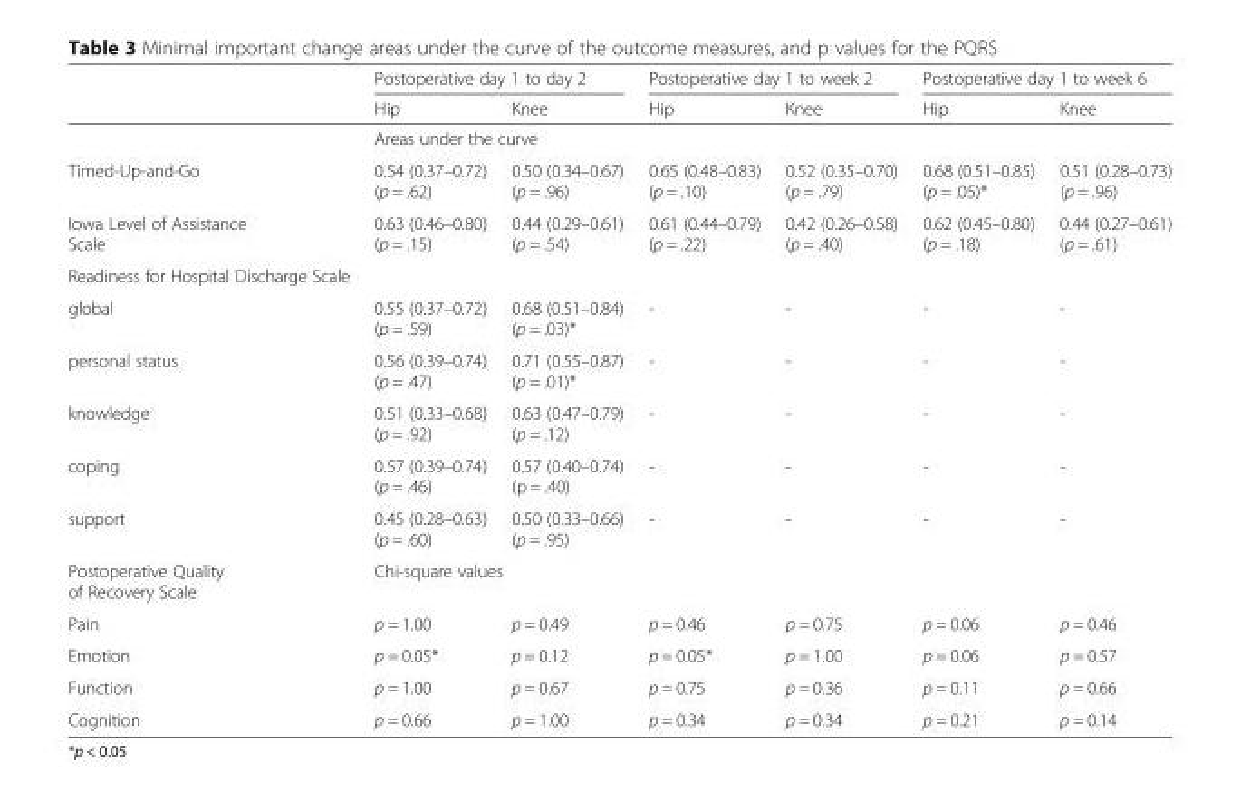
<table><thead><tr><td rowspan="2"></td><td colspan="2">Postoperative day 1 to day 2</td><td colspan="2">Postoperative day 1 to week 2</td><td colspan="2">Postoperative day 1 to week 6</td></tr><tr><td>Hip</td><td>Knee</td><td>Hip</td><td>Knee</td><td>Hip</td><td>Knee</td></tr></thead><tbody><tr><td></td><td colspan="6">Areas under the curve</td></tr><tr><td>Timed-Up-and-Go</td><td>0.54 (0.37–0.72) (p = .62)</td><td>0.50 (0.34–0.67) (p = .96)</td><td>0.65 (0.48–0.83) (p = .10)</td><td>0.52 (0.35–0.70) (p = .79)</td><td>0.68 (0.51–0.85) (p = .05)*</td><td>0.51 (0.28–0.73) (p = .96)</td></tr><tr><td>Iowa Level of Assistance Scale</td><td>0.63 (0.46–0.80) (p = .15)</td><td>0.44 (0.29–0.61) (p = .54)</td><td>0.61 (0.44–0.79) (p = .22)</td><td>0.42 (0.26–0.58) (p = .40)</td><td>0.62 (0.45–0.80) (p = .18)</td><td>0.44 (0.27–0.61) (p = .61)</td></tr><tr><td colspan="7">Readiness for Hospital Discharge Scale</td></tr><tr><td>global</td><td>0.55 (0.37–0.72) (p = .59)</td><td>0.68 (0.51–0.84) (p = .03)*</td><td>-</td><td>-</td><td>-</td><td>-</td></tr><tr><td>personal status</td><td>0.56 (0.39–0.74) (p = .47)</td><td>0.71 (0.55–0.87) (p = .01)*</td><td>-</td><td>-</td><td>-</td><td>-</td></tr><tr><td>knowledge</td><td>0.51 (0.33–0.68) (p = .92)</td><td>0.63 (0.47–0.79) (p = .12)</td><td>-</td><td>-</td><td>-</td><td>-</td></tr><tr><td>coping</td><td>0.57 (0.39–0.74) (p = .46)</td><td>0.57 (0.40–0.74) (p = .40)</td><td>-</td><td>-</td><td>-</td><td>-</td></tr><tr><td>support</td><td>0.45 (0.28–0.63) (p = .60)</td><td>0.50 (0.33–0.66) (p = .95)</td><td>-</td><td>-</td><td>-</td><td>-</td></tr><tr><td>Postoperative Quality of Recovery Scale</td><td colspan="6">Chi-square values</td></tr><tr><td>Pain</td><td>p = 1.00</td><td>p = 0.49</td><td>p = 0.46</td><td>p = 0.75</td><td>p = 0.06</td><td>p = 0.46</td></tr><tr><td>Emotion</td><td>p = 0.05*</td><td>p = 0.12</td><td>p = 0.05*</td><td>p = 1.00</td><td>p = 0.06</td><td>p = 0.57</td></tr><tr><td>Function</td><td>p = 1.00</td><td>p = 0.67</td><td>p = 0.75</td><td>p = 0.36</td><td>p = 0.11</td><td>p = 0.66</td></tr><tr><td>Cognition</td><td>p = 0.66</td><td>p = 1.00</td><td>p = 0.34</td><td>p = 0.34</td><td>p = 0.21</td><td>p = 0.14</td></tr></tbody></table>